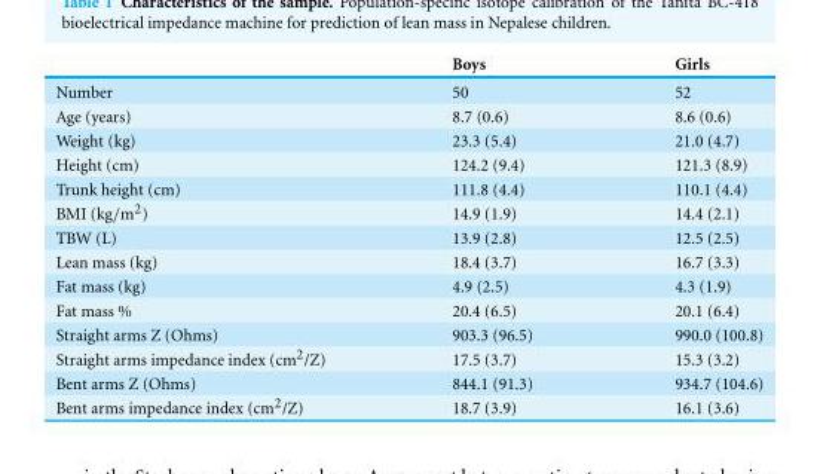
<table><thead><tr><td></td><td>Boys</td><td>Girls</td></tr></thead><tbody><tr><td>Number</td><td>50</td><td>52</td></tr><tr><td>Age (years)</td><td>8.7 (0.6)</td><td>8.6 (0.6)</td></tr><tr><td>Weight (kg)</td><td>23.3 (5.4)</td><td>21.0 (4.7)</td></tr><tr><td>Height (cm)</td><td>124.2 (9.4)</td><td>121.3 (8.9)</td></tr><tr><td>Trunk height (cm)</td><td>111.8 (4.4)</td><td>110.1 (4.4)</td></tr><tr><td>BMI (kg/m<sup>2</sup>)</td><td>14.9 (1.9)</td><td>14.4 (2.1)</td></tr><tr><td>TBW (L)</td><td>13.9 (2.8)</td><td>12.5 (2.5)</td></tr><tr><td>Lean mass (kg)</td><td>18.4 (3.7)</td><td>16.7 (3.3)</td></tr><tr><td>Fat mass (kg)</td><td>4.9 (2.5)</td><td>4.3 (1.9)</td></tr><tr><td>Fat mass %</td><td>20.4 (6.5)</td><td>20.1 (6.4)</td></tr><tr><td>Straight arms Z (Ohms)</td><td>903.3 (96.5)</td><td>990.0 (100.8)</td></tr><tr><td>Straight arms impedance index (cm<sup>2</sup>/Z)</td><td>17.5 (3.7)</td><td>15.3 (3.2)</td></tr><tr><td>Bent arms Z (Ohms)</td><td>844.1 (91.3)</td><td>934.7 (104.6)</td></tr><tr><td>Bent arms impedance index (cm<sup>2</sup>/Z)</td><td>18.7 (3.9)</td><td>16.1 (3.6)</td></tr></tbody></table>